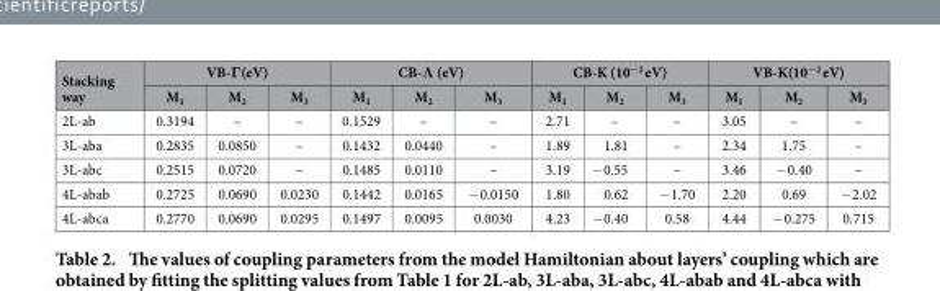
<table><thead><tr><td rowspan="2">Stacking way</td><td colspan="3">VB-Γ(eV)</td><td colspan="3">CB-Λ (eV)</td><td colspan="3">CB-K (10<sup>−2</sup> eV)</td><td colspan="3">VB-K(10<sup>−2</sup> eV)</td></tr><tr><td>M<sub>1</sub></td><td>M<sub>2</sub></td><td>M<sub>3</sub></td><td>M<sub>1</sub></td><td>M<sub>2</sub></td><td>M<sub>3</sub></td><td>M<sub>1</sub></td><td>M<sub>2</sub></td><td>M<sub>3</sub></td><td>M<sub>1</sub></td><td>M<sub>2</sub></td><td>M<sub>3</sub></td></tr></thead><tbody><tr><td>2L-ab</td><td>0.3194</td><td>–</td><td>–</td><td>0.1529</td><td>–</td><td>–</td><td>2.71</td><td>–</td><td>–</td><td>3.05</td><td>–</td><td>–</td></tr><tr><td>3L-aba</td><td>0.2835</td><td>0.0850</td><td>–</td><td>0.1432</td><td>0.0440</td><td>–</td><td>1.89</td><td>1.81</td><td>–</td><td>2.34</td><td>1.75</td><td>–</td></tr><tr><td>3L-abc</td><td>0.2515</td><td>0.0720</td><td>–</td><td>0.1485</td><td>0.0110</td><td>–</td><td>3.19</td><td>− 0.55</td><td>–</td><td>3.46</td><td>− 0.40</td><td>–</td></tr><tr><td>4L-abab</td><td>0.2725</td><td>0.0690</td><td>0.0230</td><td>0.1442</td><td>0.0165</td><td>− 0.0150</td><td>1.80</td><td>0.62</td><td>− 1.70</td><td>2.20</td><td>0.69</td><td>− 2.02</td></tr><tr><td>4L-abca</td><td>0.2770</td><td>0.0690</td><td>0.0295</td><td>0.1497</td><td>0.0095</td><td>0.0030</td><td>4.23</td><td>− 0.40</td><td>0.58</td><td>4.44</td><td>− 0.275</td><td>0.715</td></tr></tbody></table>